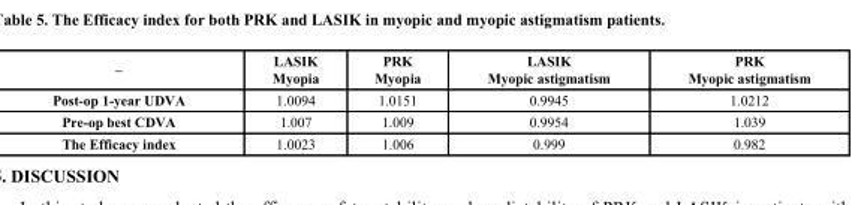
<table><thead><tr><td>–</td><td>LASIK Myopia</td><td>PRK Myopia</td><td>LASIK Myopic astigmatism</td><td>PRK Myopic astigmatism</td></tr></thead><tbody><tr><td>Post-op 1-year UDVA</td><td>1.0094</td><td>1.0151</td><td>0.9945</td><td>1.0212</td></tr><tr><td>Pre-op best CDVA</td><td>1.007</td><td>1.009</td><td>0.9954</td><td>1.039</td></tr><tr><td>The Efficacy index</td><td>1.0023</td><td>1.006</td><td>0.999</td><td>0.982</td></tr></tbody></table>